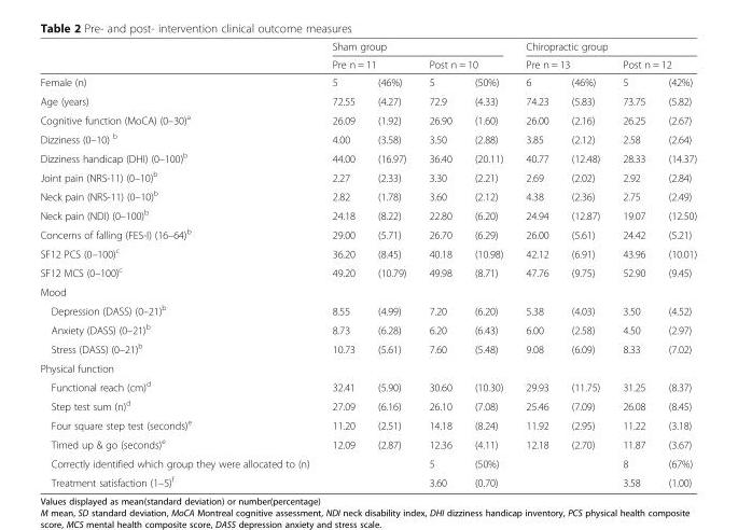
<table><thead><tr><td rowspan="3">Female (n)</td><td colspan="4">Sham group</td><td colspan="4">Chiropractic group</td></tr><tr><td colspan="2">Pre n = 11</td><td colspan="2">Post n = 10</td><td colspan="2">Pre n = 13</td><td colspan="2">Post n = 12</td></tr><tr><td>5</td><td>(46%)</td><td>5</td><td>(50%)</td><td>6</td><td>(46%)</td><td>5</td><td>(42%)</td></tr></thead><tbody><tr><td>Age (years)</td><td>72.55</td><td>(4.27)</td><td>72.9</td><td>(4.33)</td><td>74.23</td><td>(5.83)</td><td>73.75</td><td>(5.82)</td></tr><tr><td>Cognitive function (MoCA) (0–30)<sup>a</sup></td><td>26.09</td><td>(1.92)</td><td>26.90</td><td>(1.60)</td><td>26.00</td><td>(2.16)</td><td>26.25</td><td>(2.67)</td></tr><tr><td>Dizziness (0–10) <sup>b</sup></td><td>4.00</td><td>(3.58)</td><td>3.50</td><td>(2.88)</td><td>3.85</td><td>(2.12)</td><td>2.58</td><td>(2.64)</td></tr><tr><td>Dizziness handicap (DHI) (0–100)<sup>b</sup></td><td>44.00</td><td>(16.97)</td><td>36.40</td><td>(20.11)</td><td>40.77</td><td>(12.48)</td><td>28.33</td><td>(14.37)</td></tr><tr><td>Joint pain (NRS-11) (0–10)<sup>b</sup></td><td>2.27</td><td>(2.33)</td><td>3.30</td><td>(2.21)</td><td>2.69</td><td>(2.02)</td><td>2.92</td><td>(2.84)</td></tr><tr><td>Neck pain (NRS-11) (0–10)<sup>b</sup></td><td>2.82</td><td>(1.78)</td><td>3.60</td><td>(2.12)</td><td>4.38</td><td>(2.36)</td><td>2.75</td><td>(2.49)</td></tr><tr><td>Neck pain (NDI) (0–100)<sup>b</sup></td><td>24.18</td><td>(8.22)</td><td>22.80</td><td>(6.20)</td><td>24.94</td><td>(12.87)</td><td>19.07</td><td>(12.50)</td></tr><tr><td>Concerns of falling (FES-I) (16–64)<sup>b</sup></td><td>29.00</td><td>(5.71)</td><td>26.70</td><td>(6.29)</td><td>26.00</td><td>(5.61)</td><td>24.42</td><td>(5.21)</td></tr><tr><td>SF12 PCS (0–100)<sup>c</sup></td><td>36.20</td><td>(8.45)</td><td>40.18</td><td>(10.98)</td><td>42.12</td><td>(6.91)</td><td>43.96</td><td>(10.01)</td></tr><tr><td>SF12 MCS (0–100)<sup>c</sup></td><td>49.20</td><td>(10.79)</td><td>49.98</td><td>(8.71)</td><td>47.76</td><td>(9.75)</td><td>52.90</td><td>(9.45)</td></tr><tr><td colspan="9">Mood</td></tr><tr><td>Depression (DASS) (0–21)<sup>b</sup></td><td>8.55</td><td>(4.99)</td><td>7.20</td><td>(6.20)</td><td>5.38</td><td>(4.03)</td><td>3.50</td><td>(4.52)</td></tr><tr><td>Anxiety (DASS) (0–21)<sup>b</sup></td><td>8.73</td><td>(6.28)</td><td>6.20</td><td>(6.43)</td><td>6.00</td><td>(2.58)</td><td>4.50</td><td>(2.97)</td></tr><tr><td>Stress (DASS) (0–21)<sup>b</sup></td><td>10.73</td><td>(5.61)</td><td>7.60</td><td>(5.48)</td><td>9.08</td><td>(6.09)</td><td>8.33</td><td>(7.02)</td></tr><tr><td colspan="9">Physical function</td></tr><tr><td>Functional reach (cm)<sup>d</sup></td><td>32.41</td><td>(5.90)</td><td>30.60</td><td>(10.30)</td><td>29.93</td><td>(11.75)</td><td>31.25</td><td>(8.37)</td></tr><tr><td>Step test sum (n)<sup>d</sup></td><td>27.09</td><td>(6.16)</td><td>26.10</td><td>(7.08)</td><td>25.46</td><td>(7.09)</td><td>26.08</td><td>(8.45)</td></tr><tr><td>Four square step test (seconds)<sup>e</sup></td><td>11.20</td><td>(2.51)</td><td>14.18</td><td>(8.24)</td><td>11.92</td><td>(2.95)</td><td>11.22</td><td>(3.18)</td></tr><tr><td>Timed up &amp; go (seconds)<sup>e</sup></td><td>12.09</td><td>(2.87)</td><td>12.36</td><td>(4.11)</td><td>12.18</td><td>(2.70)</td><td>11.87</td><td>(3.67)</td></tr><tr><td>Correctly identified which group they were allocated to (n)</td><td></td><td></td><td>5</td><td>(50%)</td><td></td><td></td><td>8</td><td>(67%)</td></tr><tr><td>Treatment satisfaction (1–5)<sup>f</sup></td><td></td><td></td><td>3.60</td><td>(0.70)</td><td></td><td></td><td>3.58</td><td>(1.00)</td></tr></tbody></table>